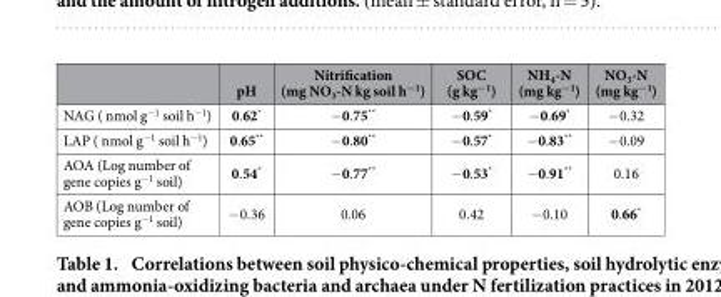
<table><thead><tr><td></td><td>pH</td><td>Nitrification (mg NO<sub>3</sub>-N kg soil h<sup>−1</sup>)</td><td>SOC (g kg<sup>−1</sup>)</td><td>NH<sub>4</sub>-N (mg kg<sup>−1</sup>)</td><td>NO<sub>3</sub>-N (mg kg<sup>−1</sup>)</td></tr></thead><tbody><tr><td>NAG ( nmol g<sup>−1</sup> soil h<sup>−1</sup>)</td><td>0.62*</td><td>− 0.75**</td><td>− 0.59*</td><td>− 0.69*</td><td>− 0.32</td></tr><tr><td>LAP ( nmol g<sup>−1</sup> soil h<sup>−1</sup>)</td><td>0.65**</td><td>− 0.80**</td><td>− 0.57*</td><td>− 0.83**</td><td>− 0.09</td></tr><tr><td>AOA (Log number of gene copies g<sup>−1</sup> soil)</td><td>0.54*</td><td>− 0.77**</td><td>− 0.53*</td><td>− 0.91**</td><td>0.16</td></tr><tr><td>AOB (Log number of gene copies g<sup>−1</sup> soil)</td><td>− 0.36</td><td>0.06</td><td>0.42</td><td>− 0.10</td><td>0.66*</td></tr></tbody></table>